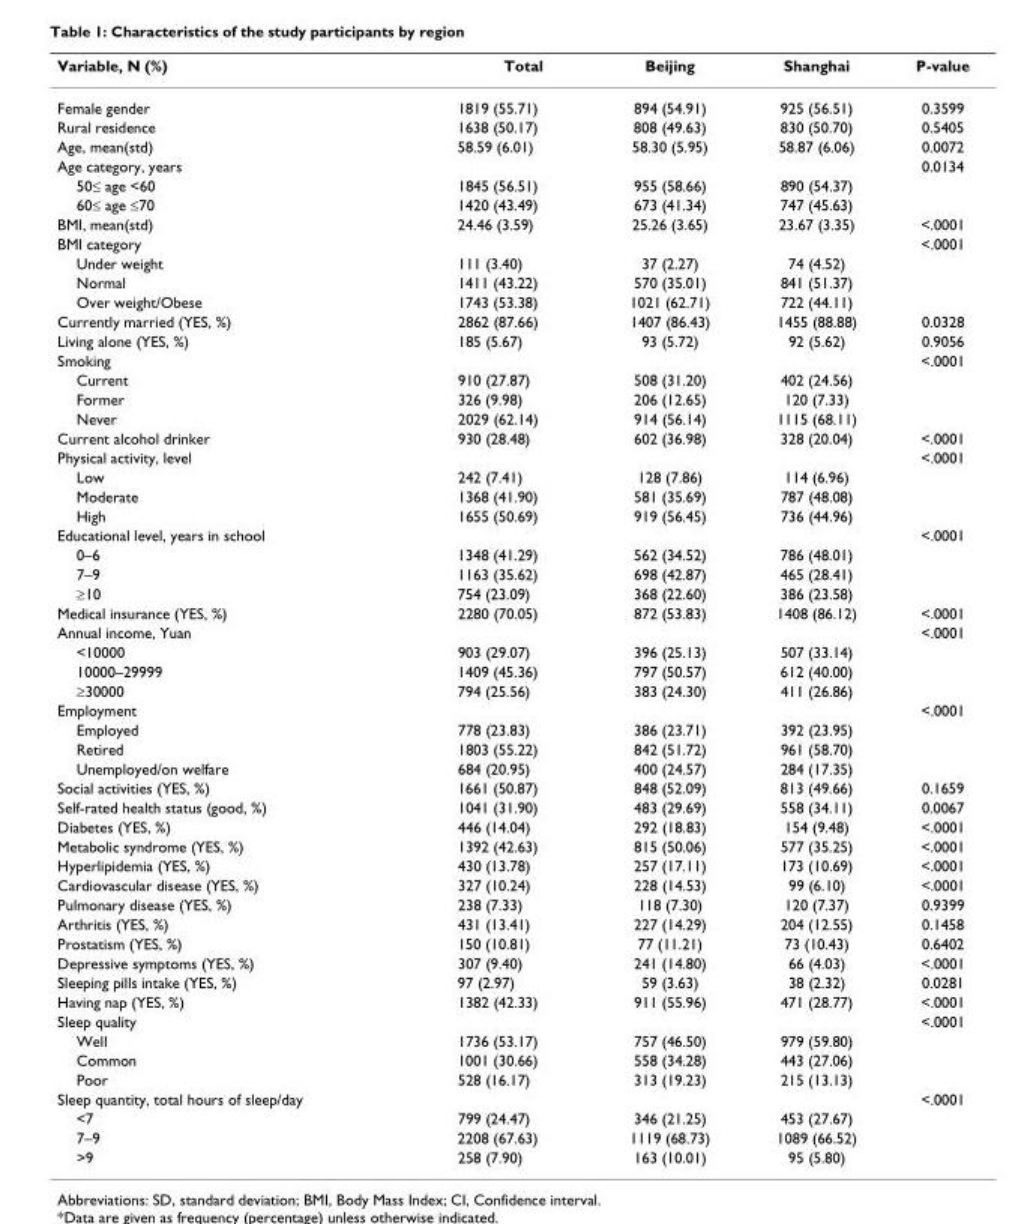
<table><thead><tr><td>Variable, N (%)</td><td>Total</td><td>Beijing</td><td>Shanghai</td><td>P-value</td></tr></thead><tbody><tr><td>Female gender</td><td>1819 (55.71)</td><td>894 (54.91)</td><td>925 (56.51)</td><td>0.3599</td></tr><tr><td>Rural residence</td><td>1638 (50.17)</td><td>808 (49.63)</td><td>830 (50.70)</td><td>0.5405</td></tr><tr><td>Age, mean(std)</td><td>58.59 (6.01)</td><td>58.30 (5.95)</td><td>58.87 (6.06)</td><td>0.0072</td></tr><tr><td>Age category, years</td><td></td><td></td><td></td><td>0.0134</td></tr><tr><td>50≤ age &lt;60</td><td>1845 (56.51)</td><td>955 (58.66)</td><td>890 (54.37)</td><td></td></tr><tr><td>60≤ age ≤70</td><td>1420 (43.49)</td><td>673 (41.34)</td><td>747 (45.63)</td><td></td></tr><tr><td>BMI, mean(std)</td><td>24.46 (3.59)</td><td>25.26 (3.65)</td><td>23.67 (3.35)</td><td>&lt;.0001</td></tr><tr><td>BMI category</td><td></td><td></td><td></td><td>&lt;.0001</td></tr><tr><td>Under weight</td><td>111 (3.40)</td><td>37 (2.27)</td><td>74 (4.52)</td><td></td></tr><tr><td>Normal</td><td>1411 (43.22)</td><td>570 (35.01)</td><td>841 (51.37)</td><td></td></tr><tr><td>Over weight/Obese</td><td>1743 (53.38)</td><td>1021 (62.71)</td><td>722 (44.11)</td><td></td></tr><tr><td>Currently married (YES, %)</td><td>2862 (87.66)</td><td>1407 (86.43)</td><td>1455 (88.88)</td><td>0.0328</td></tr><tr><td>Living alone (YES, %)</td><td>185 (5.67)</td><td>93 (5.72)</td><td>92 (5.62)</td><td>0.9056</td></tr><tr><td>Smoking</td><td></td><td></td><td></td><td>&lt;.0001</td></tr><tr><td>Current</td><td>910 (27.87)</td><td>508 (31.20)</td><td>402 (24.56)</td><td></td></tr><tr><td>Former</td><td>326 (9.98)</td><td>206 (12.65)</td><td>120 (7.33)</td><td></td></tr><tr><td>Never</td><td>2029 (62.14)</td><td>914 (56.14)</td><td>1115 (68.11)</td><td></td></tr><tr><td>Current alcohol drinker</td><td>930 (28.48)</td><td>602 (36.98)</td><td>328 (20.04)</td><td>&lt;.0001</td></tr><tr><td>Physical activity, level</td><td></td><td></td><td></td><td>&lt;.0001</td></tr><tr><td>Low</td><td>242 (7.41)</td><td>128 (7.86)</td><td>114 (6.96)</td><td></td></tr><tr><td>Moderate</td><td>1368 (41.90)</td><td>581 (35.69)</td><td>787 (48.08)</td><td></td></tr><tr><td>High</td><td>1655 (50.69)</td><td>919 (56.45)</td><td>736 (44.96)</td><td></td></tr><tr><td>Educational level, years in school</td><td></td><td></td><td></td><td>&lt;.0001</td></tr><tr><td>0–6</td><td>1348 (41.29)</td><td>562 (34.52)</td><td>786 (48.01)</td><td></td></tr><tr><td>7–9</td><td>1163 (35.62)</td><td>698 (42.87)</td><td>465 (28.41)</td><td></td></tr><tr><td>≥10</td><td>754 (23.09)</td><td>368 (22.60)</td><td>386 (23.58)</td><td></td></tr><tr><td>Medical insurance (YES, %)</td><td>2280 (70.05)</td><td>872 (53.83)</td><td>1408 (86.12)</td><td>&lt;.0001</td></tr><tr><td>Annual income, Yuan</td><td></td><td></td><td></td><td>&lt;.0001</td></tr><tr><td>&lt;10000</td><td>903 (29.07)</td><td>396 (25.13)</td><td>507 (33.14)</td><td></td></tr><tr><td>10000–29999</td><td>1409 (45.36)</td><td>797 (50.57)</td><td>612 (40.00)</td><td></td></tr><tr><td>≥30000</td><td>794 (25.56)</td><td>383 (24.30)</td><td>411 (26.86)</td><td></td></tr><tr><td>Employment</td><td></td><td></td><td></td><td>&lt;.0001</td></tr><tr><td>Employed</td><td>778 (23.83)</td><td>386 (23.71)</td><td>392 (23.95)</td><td></td></tr><tr><td>Retired</td><td>1803 (55.22)</td><td>842 (51.72)</td><td>961 (58.70)</td><td></td></tr><tr><td>Unemployed/on welfare</td><td>684 (20.95)</td><td>400 (24.57)</td><td>284 (17.35)</td><td></td></tr><tr><td>Social activities (YES, %)</td><td>1661 (50.87)</td><td>848 (52.09)</td><td>813 (49.66)</td><td>0.1659</td></tr><tr><td>Self-rated health status (good, %)</td><td>1041 (31.90)</td><td>483 (29.69)</td><td>558 (34.11)</td><td>0.0067</td></tr><tr><td>Diabetes (YES, %)</td><td>446 (14.04)</td><td>292 (18.83)</td><td>154 (9.48)</td><td>&lt;.0001</td></tr><tr><td>Metabolic syndrome (YES, %)</td><td>1392 (42.63)</td><td>815 (50.06)</td><td>577 (35.25)</td><td>&lt;.0001</td></tr><tr><td>Hyperlipidemia (YES, %)</td><td>430 (13.78)</td><td>257 (17.11)</td><td>173 (10.69)</td><td>&lt;.0001</td></tr><tr><td>Cardiovascular disease (YES, %)</td><td>327 (10.24)</td><td>228 (14.53)</td><td>99 (6.10)</td><td>&lt;.0001</td></tr><tr><td>Pulmonary disease (YES, %)</td><td>238 (7.33)</td><td>118 (7.30)</td><td>120 (7.37)</td><td>0.9399</td></tr><tr><td>Arthritis (YES, %)</td><td>431 (13.41)</td><td>227 (14.29)</td><td>204 (12.55)</td><td>0.1458</td></tr><tr><td>Prostatism (YES, %)</td><td>150 (10.81)</td><td>77 (11.21)</td><td>73 (10.43)</td><td>0.6402</td></tr><tr><td>Depressive symptoms (YES, %)</td><td>307 (9.40)</td><td>241 (14.80)</td><td>66 (4.03)</td><td>&lt;.0001</td></tr><tr><td>Sleeping pills intake (YES, %)</td><td>97 (2.97)</td><td>59 (3.63)</td><td>38 (2.32)</td><td>0.0281</td></tr><tr><td>Having nap (YES, %)</td><td>1382 (42.33)</td><td>911 (55.96)</td><td>471 (28.77)</td><td>&lt;.0001</td></tr><tr><td>Sleep quality</td><td></td><td></td><td></td><td>&lt;.0001</td></tr><tr><td>Well</td><td>1736 (53.17)</td><td>757 (46.50)</td><td>979 (59.80)</td><td></td></tr><tr><td>Common</td><td>1001 (30.66)</td><td>558 (34.28)</td><td>443 (27.06)</td><td></td></tr><tr><td>Poor</td><td>528 (16.17)</td><td>313 (19.23)</td><td>215 (13.13)</td><td></td></tr><tr><td>Sleep quantity, total hours of sleep/day</td><td></td><td></td><td></td><td>&lt;.0001</td></tr><tr><td>&lt;7</td><td>799 (24.47)</td><td>346 (21.25)</td><td>453 (27.67)</td><td></td></tr><tr><td>7–9</td><td>2208 (67.63)</td><td>1119 (68.73)</td><td>1089 (66.52)</td><td></td></tr><tr><td>&gt;9</td><td>258 (7.90)</td><td>163 (10.01)</td><td>95 (5.80)</td><td></td></tr></tbody></table>